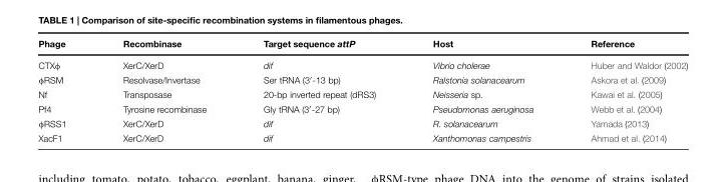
<table><thead><tr><td>Phage</td><td>Recombinase</td><td>Target sequence attP</td><td>Host</td><td>Reference</td></tr></thead><tbody><tr><td>CTXφ</td><td>XerC/XerD</td><td>dif</td><td>Vibrio cholerae</td><td>Huber and Waldor (2002)</td></tr><tr><td>φRSM</td><td>Resolvase/Invertase</td><td>Ser tRNA (3′-13 bp)</td><td>Ralstonia solanacearum</td><td>Askora et al. (2009)</td></tr><tr><td>Nf</td><td>Transposase</td><td>20-bp inverted repeat (dRS3)</td><td>Neisseria sp.</td><td>Kawai et al. (2005)</td></tr><tr><td>Pf4</td><td>Tyrosine recombinase</td><td>Gly tRNA (3′-27 bp)</td><td>Pseudomonas aeruginosa</td><td>Webb et al. (2004)</td></tr><tr><td>φRSS1</td><td>XerC/XerD</td><td>dif</td><td>R. solanacearum</td><td>Yamada (2013)</td></tr><tr><td>XacF1</td><td>XerC/XerD</td><td>dif</td><td>Xanthomonas campestris</td><td>Ahmad et al. (2014)</td></tr></tbody></table>